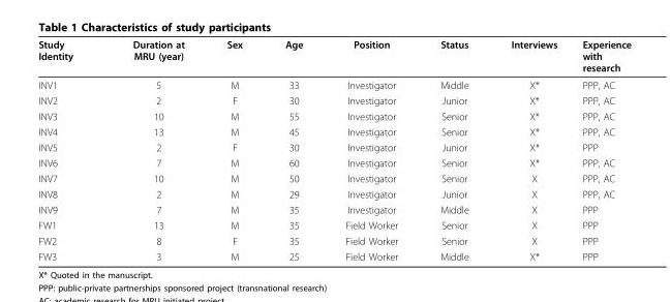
<table><thead><tr><td>Study Identity</td><td>Duration at MRU (year)</td><td>Sex</td><td>Age</td><td>Position</td><td>Status</td><td>Interviews</td><td>Experience with research</td></tr></thead><tbody><tr><td>INV1</td><td>5</td><td>M</td><td>33</td><td>Investigator</td><td>Middle</td><td>X*</td><td>PPP, AC</td></tr><tr><td>INV2</td><td>2</td><td>F</td><td>30</td><td>Investigator</td><td>Junior</td><td>X*</td><td>PPP, AC</td></tr><tr><td>INV3</td><td>10</td><td>M</td><td>55</td><td>Investigator</td><td>Senior</td><td>X*</td><td>PPP, AC</td></tr><tr><td>INV4</td><td>13</td><td>M</td><td>45</td><td>Investigator</td><td>Senior</td><td>X*</td><td>PPP, AC</td></tr><tr><td>INV5</td><td>2</td><td>F</td><td>30</td><td>Investigator</td><td>Junior</td><td>X*</td><td>PPP</td></tr><tr><td>INV6</td><td>7</td><td>M</td><td>60</td><td>Investigator</td><td>Senior</td><td>X*</td><td>PPP, AC</td></tr><tr><td>INV7</td><td>10</td><td>M</td><td>50</td><td>Investigator</td><td>Senior</td><td>X</td><td>PPP, AC</td></tr><tr><td>INV8</td><td>2</td><td>M</td><td>29</td><td>Investigator</td><td>Junior</td><td>X</td><td>PPP, AC</td></tr><tr><td>INV9</td><td>7</td><td>M</td><td>35</td><td>Investigator</td><td>Middle</td><td>X</td><td>PPP</td></tr><tr><td>FW1</td><td>13</td><td>M</td><td>35</td><td>Field Worker</td><td>Senior</td><td>X</td><td>PPP</td></tr><tr><td>FW2</td><td>8</td><td>F</td><td>35</td><td>Field Worker</td><td>Senior</td><td>X</td><td>PPP</td></tr><tr><td>FW3</td><td>3</td><td>M</td><td>25</td><td>Field Worker</td><td>Middle</td><td>X*</td><td>PPP</td></tr></tbody></table>